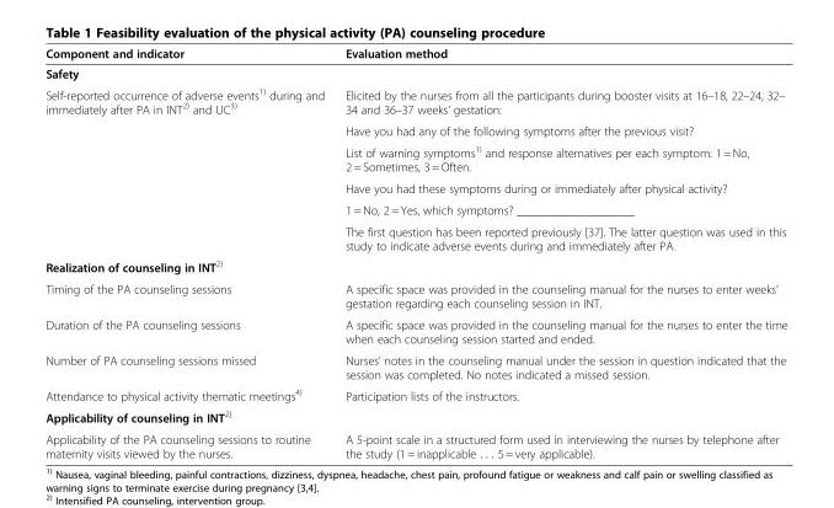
<table><thead><tr><td>Component and indicator</td><td>Evaluation method</td></tr></thead><tbody><tr><td colspan="2">Safety</td></tr><tr><td rowspan="6">Self-reported occurrence of adverse events<sup>1)</sup> during and immediately after PA in INT<sup>2)</sup> and UC<sup>3)</sup></td><td>Elicited by the nurses from all the participants during booster visits at 16–18, 22–24, 32– 34 and 36–37 weeks’ gestation:</td></tr><tr><td>Have you had any of the following symptoms after the previous visit?</td></tr><tr><td>List of warning symptoms<sup>1)</sup> and response alternatives per each symptom: 1 = No, 2 = Sometimes, 3 = Often.</td></tr><tr><td>Have you had these symptoms during or immediately after physical activity?</td></tr><tr><td>1 = No, 2 = Yes, which symptoms? ___________________</td></tr><tr><td>The first question has been reported previously [37]. The latter question was used in this study to indicate adverse events during and immediately after PA.</td></tr><tr><td colspan="2">Realization of counseling in INT<sup>2)</sup></td></tr><tr><td>Timing of the PA counseling sessions</td><td>A specific space was provided in the counseling manual for the nurses to enter weeks’ gestation regarding each counseling session in INT.</td></tr><tr><td>Duration of the PA counseling sessions</td><td>A specific space was provided in the counseling manual for the nurses to enter the time when each counseling session started and ended.</td></tr><tr><td>Number of PA counseling sessions missed</td><td>Nurses’ notes in the counseling manual under the session in question indicated that the session was completed. No notes indicated a missed session.</td></tr><tr><td>Attendance to physical activity thematic meetings<sup>4)</sup></td><td>Participation lists of the instructors.</td></tr><tr><td colspan="2">Applicability of counseling in INT<sup>2)</sup></td></tr><tr><td>Applicability of the PA counseling sessions to routine maternity visits viewed by the nurses.</td><td>A 5-point scale in a structured form used in interviewing the nurses by telephone after the study (1 = inapplicable . . . 5 = very applicable).</td></tr></tbody></table>